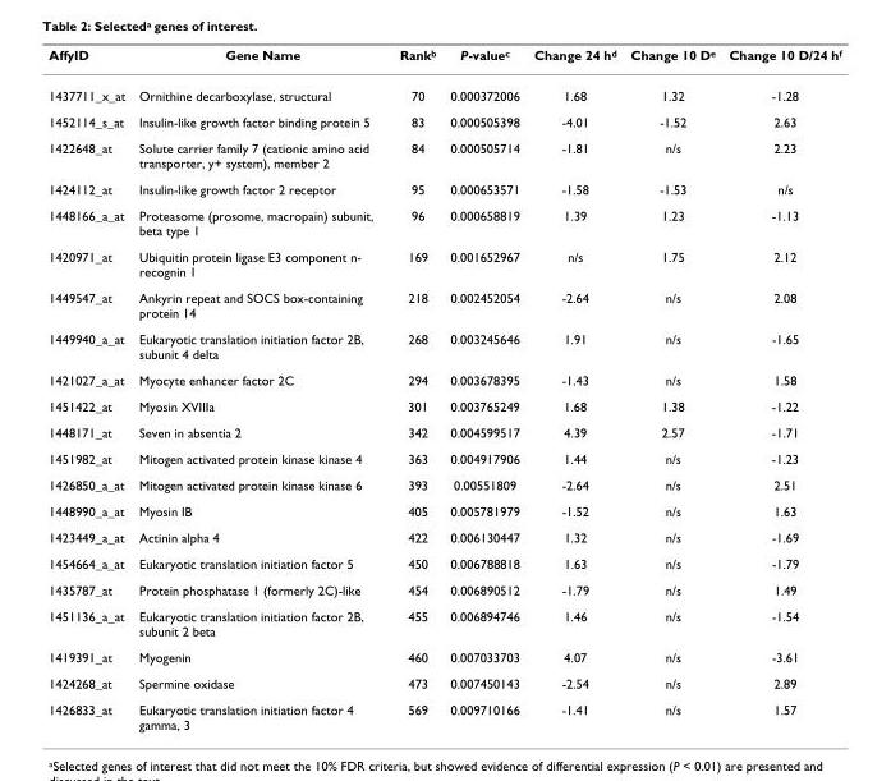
<table><thead><tr><td>AffyID</td><td>Gene Name</td><td>Rankb</td><td>P-valuec</td><td>Change 24 hd</td><td>Change 10 De</td><td>Change 10 D/24 hf</td></tr></thead><tbody><tr><td>1437711_x_at</td><td>Ornithine decarboxylase, structural</td><td>70</td><td>0.000372006</td><td>1.68</td><td>1.32</td><td>-1.28</td></tr><tr><td>1452114_s_at</td><td>Insulin-like growth factor binding protein 5</td><td>83</td><td>0.000505398</td><td>-4.01</td><td>-1.52</td><td>2.63</td></tr><tr><td>1422648_at</td><td>Solute carrier family 7 (cationic amino acid transporter, y+ system), member 2</td><td>84</td><td>0.000505714</td><td>-1.81</td><td>n/s</td><td>2.23</td></tr><tr><td>1424112_at</td><td>Insulin-like growth factor 2 receptor</td><td>95</td><td>0.000653571</td><td>-1.58</td><td>-1.53</td><td>n/s</td></tr><tr><td>1448166_a_at</td><td>Proteasome (prosome, macropain) subunit, beta type 1</td><td>96</td><td>0.000658819</td><td>1.39</td><td>1.23</td><td>-1.13</td></tr><tr><td>1420971_at</td><td>Ubiquitin protein ligase E3 component n- recognin 1</td><td>169</td><td>0.001652967</td><td>n/s</td><td>1.75</td><td>2.12</td></tr><tr><td>1449547_at</td><td>Ankyrin repeat and SOCS box-containing protein 14</td><td>218</td><td>0.002452054</td><td>-2.64</td><td>n/s</td><td>2.08</td></tr><tr><td>1449940_a_at</td><td>Eukaryotic translation initiation factor 2B, subunit 4 delta</td><td>268</td><td>0.003245646</td><td>1.91</td><td>n/s</td><td>-1.65</td></tr><tr><td>1421027_a_at</td><td>Myocyte enhancer factor 2C</td><td>294</td><td>0.003678395</td><td>-1.43</td><td>n/s</td><td>1.58</td></tr><tr><td>1451422_at</td><td>Myosin XVIIIa</td><td>301</td><td>0.003765249</td><td>1.68</td><td>1.38</td><td>-1.22</td></tr><tr><td>1448171_at</td><td>Seven in absentia 2</td><td>342</td><td>0.004599517</td><td>4.39</td><td>2.57</td><td>-1.71</td></tr><tr><td>1451982_at</td><td>Mitogen activated protein kinase kinase 4</td><td>363</td><td>0.004917906</td><td>1.44</td><td>n/s</td><td>-1.23</td></tr><tr><td>1426850_a_at</td><td>Mitogen activated protein kinase kinase 6</td><td>393</td><td>0.00551809</td><td>-2.64</td><td>n/s</td><td>2.51</td></tr><tr><td>1448990_a_at</td><td>Myosin IB</td><td>405</td><td>0.005781979</td><td>-1.52</td><td>n/s</td><td>1.63</td></tr><tr><td>1423449_a_at</td><td>Actinin alpha 4</td><td>422</td><td>0.006130447</td><td>1.32</td><td>n/s</td><td>-1.69</td></tr><tr><td>1454664_a_at</td><td>Eukaryotic translation initiation factor 5</td><td>450</td><td>0.006788818</td><td>1.63</td><td>n/s</td><td>-1.79</td></tr><tr><td>1435787_at</td><td>Protein phosphatase 1 (formerly 2C)-like</td><td>454</td><td>0.006890512</td><td>-1.79</td><td>n/s</td><td>1.49</td></tr><tr><td>1451136_a_at</td><td>Eukaryotic translation initiation factor 2B, subunit 2 beta</td><td>455</td><td>0.006894746</td><td>1.46</td><td>n/s</td><td>-1.54</td></tr><tr><td>1419391_at</td><td>Myogenin</td><td>460</td><td>0.007033703</td><td>4.07</td><td>n/s</td><td>-3.61</td></tr><tr><td>1424268_at</td><td>Spermine oxidase</td><td>473</td><td>0.007450143</td><td>-2.54</td><td>n/s</td><td>2.89</td></tr><tr><td>1426833_at</td><td>Eukaryotic translation initiation factor 4 gamma, 3</td><td>569</td><td>0.009710166</td><td>-1.41</td><td>n/s</td><td>1.57</td></tr></tbody></table>